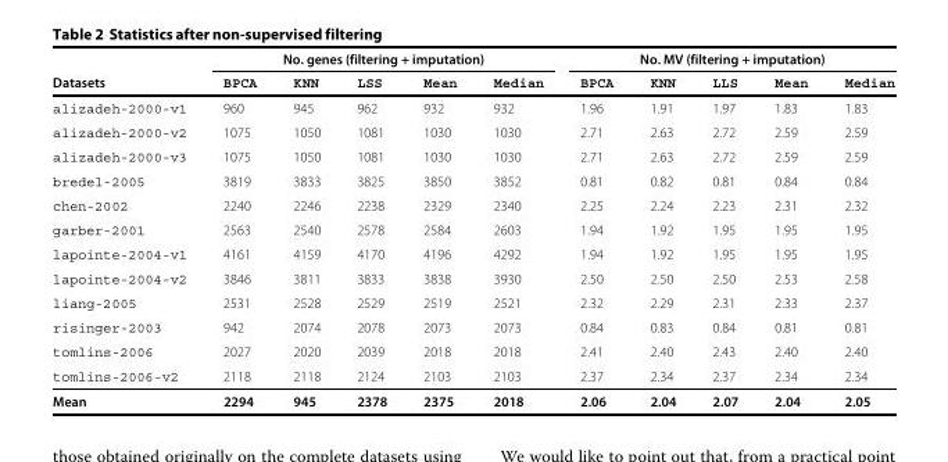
<table><thead><tr><td rowspan="2">Datasets</td><td colspan="5">No. genes (filtering + imputation)</td><td colspan="5">No. MV (filtering + imputation)</td></tr><tr><td>BPCA</td><td>KNN</td><td>LSS</td><td>Mean</td><td>Median</td><td>BPCA</td><td>KNN</td><td>LLS</td><td>Mean</td><td>Median</td></tr></thead><tbody><tr><td>alizadeh-2000-v1</td><td>960</td><td>945</td><td>962</td><td>932</td><td>932</td><td>1.96</td><td>1.91</td><td>1.97</td><td>1.83</td><td>1.83</td></tr><tr><td>alizadeh-2000-v2</td><td>1075</td><td>1050</td><td>1081</td><td>1030</td><td>1030</td><td>2.71</td><td>2.63</td><td>2.72</td><td>2.59</td><td>2.59</td></tr><tr><td>alizadeh-2000-v3</td><td>1075</td><td>1050</td><td>1081</td><td>1030</td><td>1030</td><td>2.71</td><td>2.63</td><td>2.72</td><td>2.59</td><td>2.59</td></tr><tr><td>bredel-2005</td><td>3819</td><td>3833</td><td>3825</td><td>3850</td><td>3852</td><td>0.81</td><td>0.82</td><td>0.81</td><td>0.84</td><td>0.84</td></tr><tr><td>chen-2002</td><td>2240</td><td>2246</td><td>2238</td><td>2329</td><td>2340</td><td>2.25</td><td>2.24</td><td>2.23</td><td>2.31</td><td>2.32</td></tr><tr><td>garber-2001</td><td>2563</td><td>2540</td><td>2578</td><td>2584</td><td>2603</td><td>1.94</td><td>1.92</td><td>1.95</td><td>1.95</td><td>1.95</td></tr><tr><td>lapointe-2004-v1</td><td>4161</td><td>4159</td><td>4170</td><td>4196</td><td>4292</td><td>1.94</td><td>1.92</td><td>1.95</td><td>1.95</td><td>1.95</td></tr><tr><td>lapointe-2004-v2</td><td>3846</td><td>3811</td><td>3833</td><td>3838</td><td>3930</td><td>2.50</td><td>2.50</td><td>2.50</td><td>2.53</td><td>2.58</td></tr><tr><td>liang-2005</td><td>2531</td><td>2528</td><td>2529</td><td>2519</td><td>2521</td><td>2.32</td><td>2.29</td><td>2.31</td><td>2.33</td><td>2.37</td></tr><tr><td>risinger-2003</td><td>942</td><td>2074</td><td>2078</td><td>2073</td><td>2073</td><td>0.84</td><td>0.83</td><td>0.84</td><td>0.81</td><td>0.81</td></tr><tr><td>tomlins-2006</td><td>2027</td><td>2020</td><td>2039</td><td>2018</td><td>2018</td><td>2.41</td><td>2.40</td><td>2.43</td><td>2.40</td><td>2.40</td></tr><tr><td>tomlins-2006-v2</td><td>2118</td><td>2118</td><td>2124</td><td>2103</td><td>2103</td><td>2.37</td><td>2.34</td><td>2.37</td><td>2.34</td><td>2.34</td></tr><tr><td>Mean</td><td>2294</td><td>945</td><td>2378</td><td>2375</td><td>2018</td><td>2.06</td><td>2.04</td><td>2.07</td><td>2.04</td><td>2.05</td></tr></tbody></table>